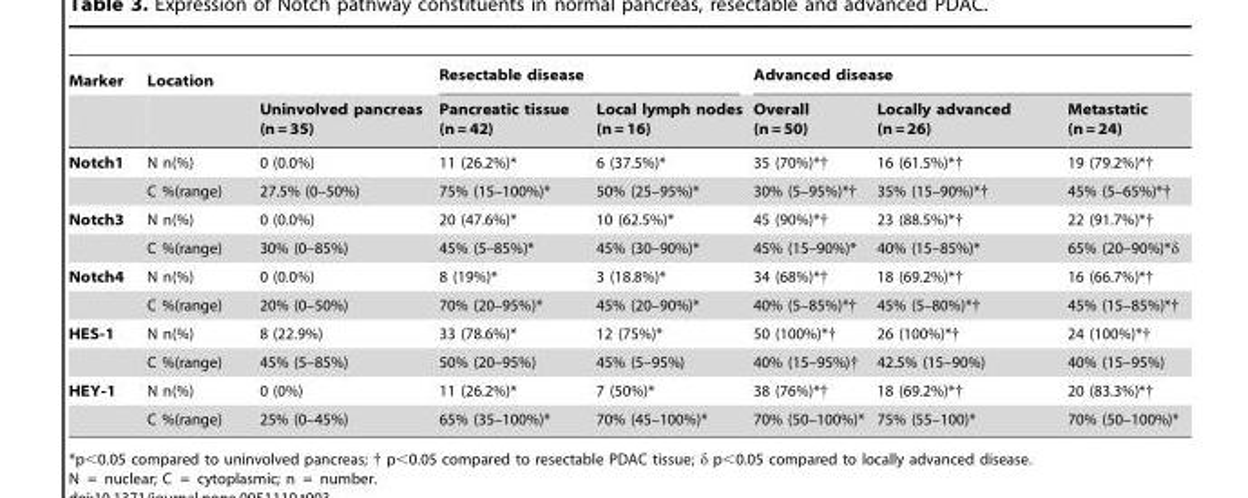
<table><thead><tr><td rowspan="2">Marker</td><td rowspan="2">Location</td><td rowspan="2">Uninvolved pancreas (n = 35)</td><td colspan="2">Resectable disease</td><td colspan="3">Advanced disease</td></tr><tr><td>Pancreatic tissue (n = 42)</td><td>Local lymph nodes (n = 16)</td><td>Overall (n = 50)</td><td>Locally advanced (n = 26)</td><td>Metastatic (n = 24)</td></tr></thead><tbody><tr><td rowspan="2">Notch1</td><td>N n(%)</td><td>0 (0.0%)</td><td>11 (26.2%)*</td><td>6 (37.5%)*</td><td>35 (70%)*†</td><td>16 (61.5%)*†</td><td>19 (79.2%)*†</td></tr><tr><td>C %(range)</td><td>27.5% (0–50%)</td><td>75% (15–100%)*</td><td>50% (25–95%)*</td><td>30% (5–95%)*†</td><td>35% (15–90%)*†</td><td>45% (5–65%)*†</td></tr><tr><td rowspan="2">Notch3</td><td>N n(%)</td><td>0 (0.0%)</td><td>20 (47.6%)*</td><td>10 (62.5%)*</td><td>45 (90%)*†</td><td>23 (88.5%)*†</td><td>22 (91.7%)*†</td></tr><tr><td>C %(range)</td><td>30% (0–85%)</td><td>45% (5–85%)*</td><td>45% (30–90%)*</td><td>45% (15–90%)*</td><td>40% (15–85%)*</td><td>65% (20–90%)*δ</td></tr><tr><td rowspan="2">Notch4</td><td>N n(%)</td><td>0 (0.0%)</td><td>8 (19%)*</td><td>3 (18.8%)*</td><td>34 (68%)*†</td><td>18 (69.2%)*†</td><td>16 (66.7%)*†</td></tr><tr><td>C %(range)</td><td>20% (0–50%)</td><td>70% (20–95%)*</td><td>45% (20–90%)*</td><td>40% (5–85%)*†</td><td>45% (5–80%)*†</td><td>45% (15–85%)*†</td></tr><tr><td rowspan="2">HES-1</td><td>N n(%)</td><td>8 (22.9%)</td><td>33 (78.6%)*</td><td>12 (75%)*</td><td>50 (100%)*†</td><td>26 (100%)*†</td><td>24 (100%)*†</td></tr><tr><td>C %(range)</td><td>45% (5–85%)</td><td>50% (20–95%)</td><td>45% (5–95%)</td><td>40% (15–95%)†</td><td>42.5% (15–90%)</td><td>40% (15–95%)</td></tr><tr><td rowspan="2">HEY-1</td><td>N n(%)</td><td>0 (0%)</td><td>11 (26.2%)*</td><td>7 (50%)*</td><td>38 (76%)*†</td><td>18 (69.2%)*†</td><td>20 (83.3%)*†</td></tr><tr><td>C %(range)</td><td>25% (0–45%)</td><td>65% (35–100%)*</td><td>70% (45–100%)*</td><td>70% (50–100%)*</td><td>75% (55–100)*</td><td>70% (50–100%)*</td></tr></tbody></table>